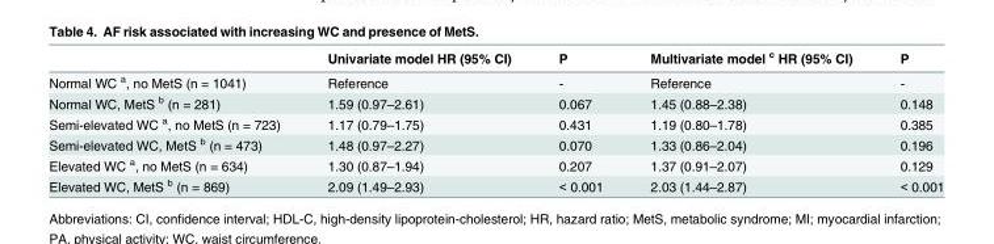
<table><thead><tr><td></td><td>Univariate model HR (95% CI)</td><td>P</td><td>Multivariate model <sup>c</sup> HR (95% CI)</td><td>P</td></tr></thead><tbody><tr><td>Normal WC <sup>a</sup>, no MetS (n = 1041)</td><td>Reference</td><td>-</td><td>Reference</td><td>-</td></tr><tr><td>Normal WC, MetS <sup>b</sup> (n = 281)</td><td>1.59 (0.97–2.61)</td><td>0.067</td><td>1.45 (0.88–2.38)</td><td>0.148</td></tr><tr><td>Semi-elevated WC <sup>a</sup>, no MetS (n = 723)</td><td>1.17 (0.79–1.75)</td><td>0.431</td><td>1.19 (0.80–1.78)</td><td>0.385</td></tr><tr><td>Semi-elevated WC, MetS <sup>b</sup> (n = 473)</td><td>1.48 (0.97–2.27)</td><td>0.070</td><td>1.33 (0.86–2.04)</td><td>0.196</td></tr><tr><td>Elevated WC <sup>a</sup>, no MetS (n = 634)</td><td>1.30 (0.87–1.94)</td><td>0.207</td><td>1.37 (0.91–2.07)</td><td>0.129</td></tr><tr><td>Elevated WC, MetS <sup>b</sup> (n = 869)</td><td>2.09 (1.49–2.93)</td><td>&lt; 0.001</td><td>2.03 (1.44–2.87)</td><td>&lt; 0.001</td></tr></tbody></table>